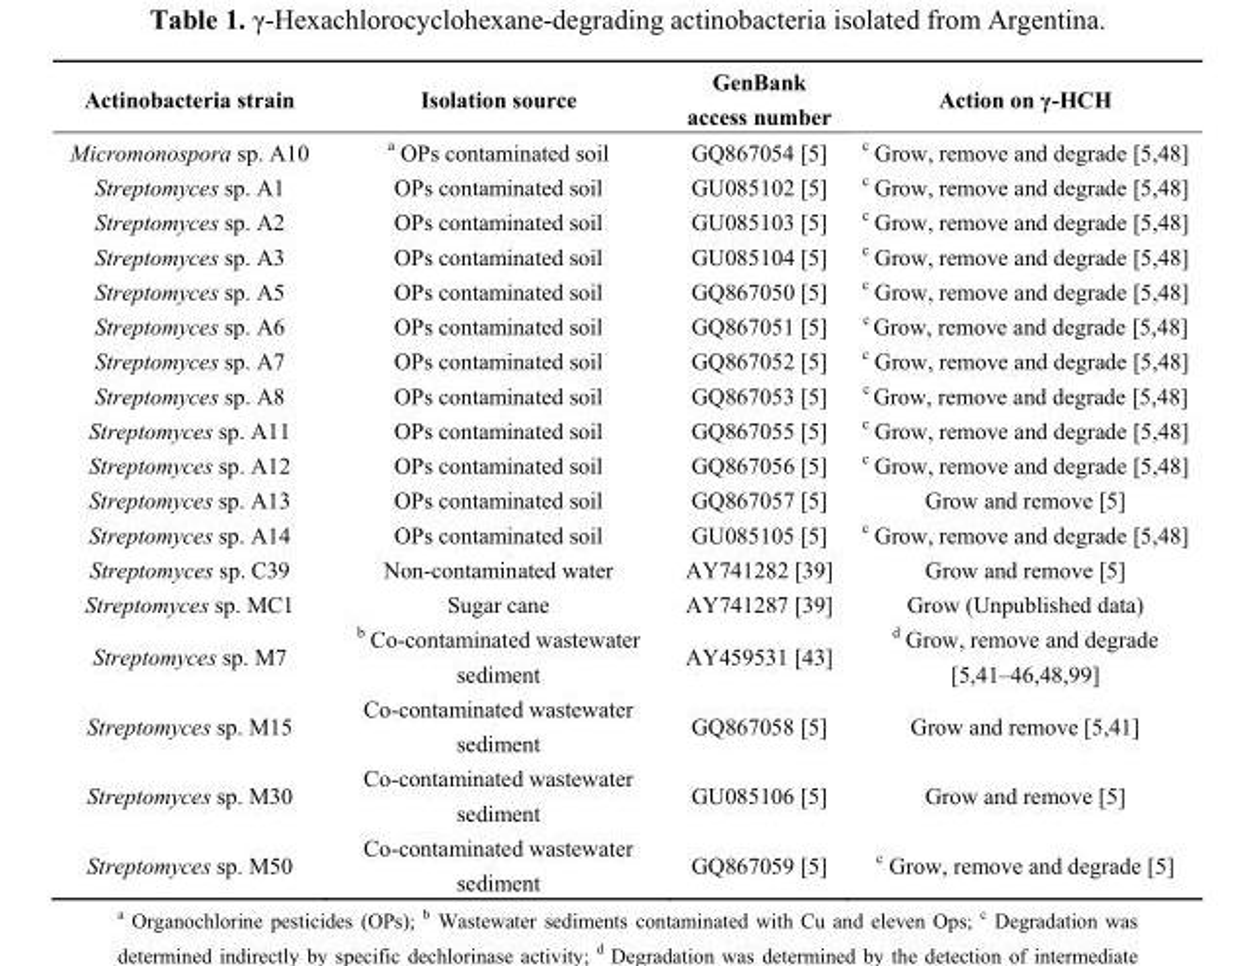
<table><thead><tr><td>Actinobacteria strain</td><td>Isolation source</td><td>GenBank access number</td><td>Action on γ-HCH</td></tr></thead><tbody><tr><td>Micromonospora sp. A10</td><td>a OPs contaminated soil</td><td>GQ867054 [5]</td><td>c Grow, remove and degrade [5,48]</td></tr><tr><td>Streptomyces sp. A1</td><td>OPs contaminated soil</td><td>GU085102 [5]</td><td>c Grow, remove and degrade [5,48]</td></tr><tr><td>Streptomyces sp. A2</td><td>OPs contaminated soil</td><td>GU085103 [5]</td><td>c Grow, remove and degrade [5,48]</td></tr><tr><td>Streptomyces sp. A3</td><td>OPs contaminated soil</td><td>GU085104 [5]</td><td>c Grow, remove and degrade [5,48]</td></tr><tr><td>Streptomyces sp. A5</td><td>OPs contaminated soil</td><td>GQ867050 [5]</td><td>c Grow, remove and degrade [5,48]</td></tr><tr><td>Streptomyces sp. A6</td><td>OPs contaminated soil</td><td>GQ867051 [5]</td><td>c Grow, remove and degrade [5,48]</td></tr><tr><td>Streptomyces sp. A7</td><td>OPs contaminated soil</td><td>GQ867052 [5]</td><td>c Grow, remove and degrade [5,48]</td></tr><tr><td>Streptomyces sp. A8</td><td>OPs contaminated soil</td><td>GQ867053 [5]</td><td>c Grow, remove and degrade [5,48]</td></tr><tr><td>Streptomyces sp. A11</td><td>OPs contaminated soil</td><td>GQ867055 [5]</td><td>c Grow, remove and degrade [5,48]</td></tr><tr><td>Streptomyces sp. A12</td><td>OPs contaminated soil</td><td>GQ867056 [5]</td><td>c Grow, remove and degrade [5,48]</td></tr><tr><td>Streptomyces sp. A13</td><td>OPs contaminated soil</td><td>GQ867057 [5]</td><td>Grow and remove [5]</td></tr><tr><td>Streptomyces sp. A14</td><td>OPs contaminated soil</td><td>GU085105 [5]</td><td>c Grow, remove and degrade [5,48]</td></tr><tr><td>Streptomyces sp. C39</td><td>Non-contaminated water</td><td>AY741282 [39]</td><td>Grow and remove [5]</td></tr><tr><td>Streptomyces sp. MC1</td><td>Sugar cane</td><td>AY741287 [39]</td><td>Grow (Unpublished data)</td></tr><tr><td>Streptomyces sp. M7</td><td>b Co-contaminated wastewater sediment</td><td>AY459531 [43]</td><td>d Grow, remove and degrade [5,41–46,48,99]</td></tr><tr><td>Streptomyces sp. M15</td><td>Co-contaminated wastewater sediment</td><td>GQ867058 [5]</td><td>Grow and remove [5,41]</td></tr><tr><td>Streptomyces sp. M30</td><td>Co-contaminated wastewater sediment</td><td>GU085106 [5]</td><td>Grow and remove [5]</td></tr><tr><td>Streptomyces sp. M50</td><td>Co-contaminated wastewater sediment</td><td>GQ867059 [5]</td><td>c Grow, remove and degrade [5]</td></tr></tbody></table>